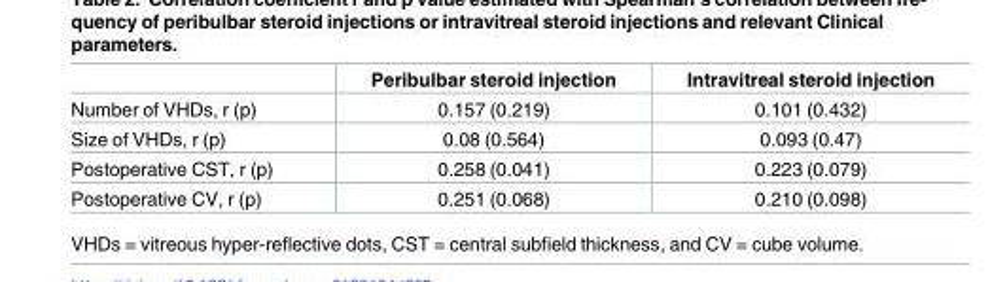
<table><thead><tr><td></td><td>Peribulbar steroid injection</td><td>Intravitreal steroid injection</td></tr></thead><tbody><tr><td>Number of VHDs, r (p)</td><td>0.157 (0.219)</td><td>0.101 (0.432)</td></tr><tr><td>Size of VHDs, r (p)</td><td>0.08 (0.564)</td><td>0.093 (0.47)</td></tr><tr><td>Postoperative CST, r (p)</td><td>0.258 (0.041)</td><td>0.223 (0.079)</td></tr><tr><td>Postoperative CV, r (p)</td><td>0.251 (0.068)</td><td>0.210 (0.098)</td></tr></tbody></table>